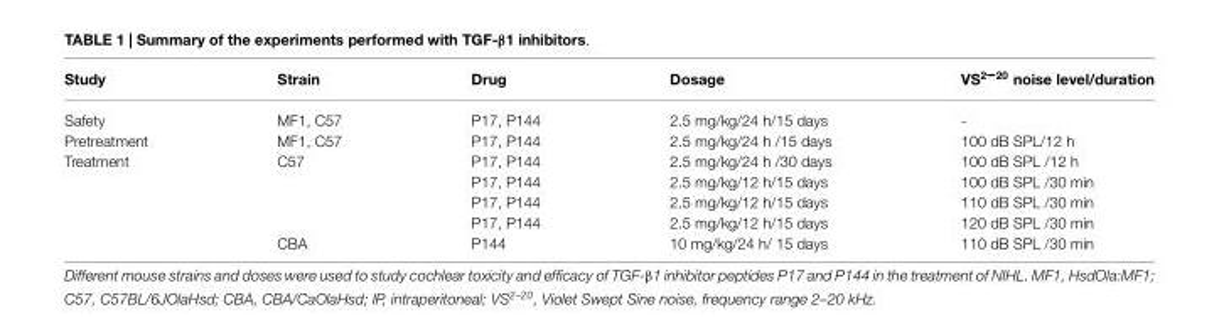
<table><thead><tr><td>Study</td><td>Strain</td><td>Drug</td><td>Dosage</td><td>VS2--20 noise level/duration</td></tr></thead><tbody><tr><td>Safety</td><td>MF1, C57</td><td>P17, P144</td><td>2.5 mg/kg/24 h/15 days</td><td>-</td></tr><tr><td>Pretreatment</td><td>MF1, C57</td><td>P17, P144</td><td>2.5 mg/kg/24 h /15 days</td><td>100 dB SPL/12 h</td></tr><tr><td rowspan="5">Treatment</td><td>C57</td><td>P17, P144</td><td>2.5 mg/kg/24 h /30 days</td><td>100 dB SPL /12 h</td></tr><tr><td></td><td>P17, P144</td><td>2.5 mg/kg/12 h/15 days</td><td>100 dB SPL /30 min</td></tr><tr><td></td><td>P17, P144</td><td>2.5 mg/kg/12 h/15 days</td><td>110 dB SPL /30 min</td></tr><tr><td></td><td>P17, P144</td><td>2.5 mg/kg/12 h/15 days</td><td>120 dB SPL /30 min</td></tr><tr><td>CBA</td><td>P144</td><td>10 mg/kg/24 h/ 15 days</td><td>110 dB SPL /30 min</td></tr></tbody></table>